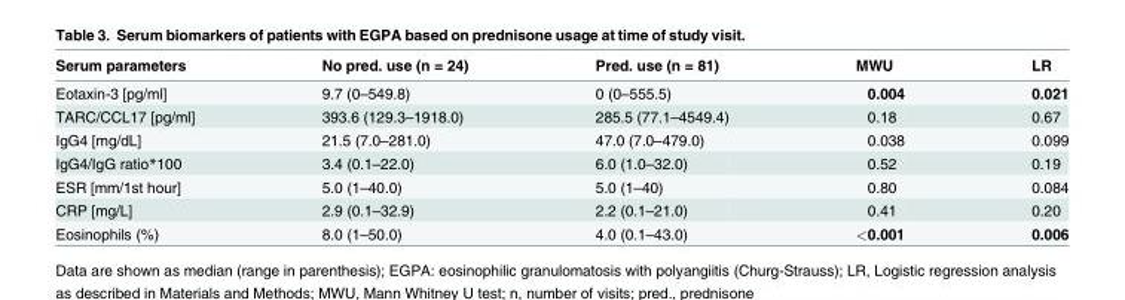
<table><thead><tr><td>Serum parameters</td><td>No pred. use (n = 24)</td><td>Pred. use (n = 81)</td><td>MWU</td><td>LR</td></tr></thead><tbody><tr><td>Eotaxin-3 [pg/ml]</td><td>9.7 (0–549.8)</td><td>0 (0–555.5)</td><td>0.004</td><td>0.021</td></tr><tr><td>TARC/CCL17 [pg/ml]</td><td>393.6 (129.3–1918.0)</td><td>285.5 (77.1–4549.4)</td><td>0.18</td><td>0.67</td></tr><tr><td>IgG4 [mg/dL]</td><td>21.5 (7.0–281.0)</td><td>47.0 (7.0–479.0)</td><td>0.038</td><td>0.099</td></tr><tr><td>IgG4/IgG ratio*100</td><td>3.4 (0.1–22.0)</td><td>6.0 (1.0–32.0)</td><td>0.52</td><td>0.19</td></tr><tr><td>ESR [mm/1st hour]</td><td>5.0 (1–40.0)</td><td>5.0 (1–40)</td><td>0.80</td><td>0.084</td></tr><tr><td>CRP [mg/L]</td><td>2.9 (0.1–32.9)</td><td>2.2 (0.1–21.0)</td><td>0.41</td><td>0.20</td></tr><tr><td>Eosinophils (%)</td><td>8.0 (1–50.0)</td><td>4.0 (0.1–43.0)</td><td>&lt;0.001</td><td>0.006</td></tr></tbody></table>